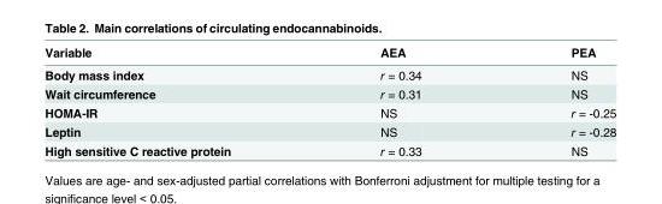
<table><thead><tr><td>Variable</td><td>AEA</td><td>PEA</td></tr></thead><tbody><tr><td>Body mass index</td><td>r = 0.34</td><td>NS</td></tr><tr><td>Wait circumference</td><td>r = 0.31</td><td>NS</td></tr><tr><td>HOMA-IR</td><td>NS</td><td>r = -0.25</td></tr><tr><td>Leptin</td><td>NS</td><td>r = -0.28</td></tr><tr><td>High sensitive C reactive protein</td><td>r = 0.33</td><td>NS</td></tr></tbody></table>